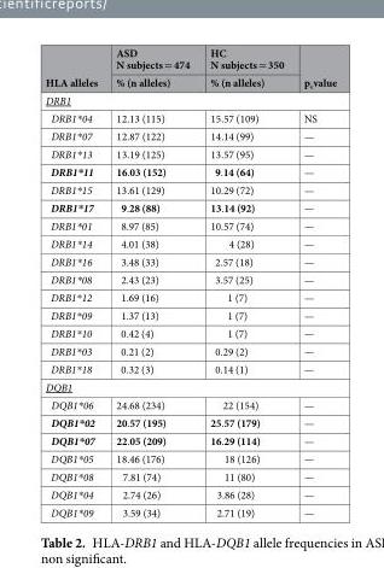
<table><thead><tr><td rowspan="2">HLA alleles</td><td rowspan="2">ASD N subjects = 474 % (n alleles)</td><td rowspan="2">HC N subjects = 350 % (n alleles)</td><td rowspan="2">p<sub>c</sub>value</td></tr><tr></tr></thead><tbody><tr><td colspan="4">DRB1</td></tr><tr><td>DRB1*04</td><td>12.13 (115)</td><td>15.57 (109)</td><td>NS</td></tr><tr><td>DRB1*07</td><td>12.87 (122)</td><td>14.14 (99)</td><td>—</td></tr><tr><td>DRB1*13</td><td>13.19 (125)</td><td>13.57 (95)</td><td>—</td></tr><tr><td>DRB1*11</td><td>16.03 (152)</td><td>9.14 (64)</td><td>—</td></tr><tr><td>DRB1*15</td><td>13.61 (129)</td><td>10.29 (72)</td><td>—</td></tr><tr><td>DRB1*17</td><td>9.28 (88)</td><td>13.14 (92)</td><td>—</td></tr><tr><td>DRB1*01</td><td>8.97 (85)</td><td>10.57 (74)</td><td>—</td></tr><tr><td>DRB1*14</td><td>4.01 (38)</td><td>4 (28)</td><td>—</td></tr><tr><td>DRB1*16</td><td>3.48 (33)</td><td>2.57 (18)</td><td>—</td></tr><tr><td>DRB1*08</td><td>2.43 (23)</td><td>3.57 (25)</td><td>—</td></tr><tr><td>DRB1*12</td><td>1.69 (16)</td><td>1 (7)</td><td>—</td></tr><tr><td>DRB1*09</td><td>1.37 (13)</td><td>1 (7)</td><td>—</td></tr><tr><td>DRB1*10</td><td>0.42 (4)</td><td>1 (7)</td><td>—</td></tr><tr><td>DRB1*03</td><td>0.21 (2)</td><td>0.29 (2)</td><td>—</td></tr><tr><td>DRB1*18</td><td>0.32 (3)</td><td>0.14 (1)</td><td>—</td></tr><tr><td colspan="4">DQB1</td></tr><tr><td>DQB1*06</td><td>24.68 (234)</td><td>22 (154)</td><td>—</td></tr><tr><td>DQB1*02</td><td>20.57 (195)</td><td>25.57 (179)</td><td>—</td></tr><tr><td>DQB1*07</td><td>22.05 (209)</td><td>16.29 (114)</td><td>—</td></tr><tr><td>DQB1*05</td><td>18.46 (176)</td><td>18 (126)</td><td>—</td></tr><tr><td>DQB1*08</td><td>7.81 (74)</td><td>11 (80)</td><td>—</td></tr><tr><td>DQB1*04</td><td>2.74 (26)</td><td>3.86 (28)</td><td>—</td></tr><tr><td>DQB1*09</td><td>3.59 (34)</td><td>2.71 (19)</td><td>—</td></tr></tbody></table>